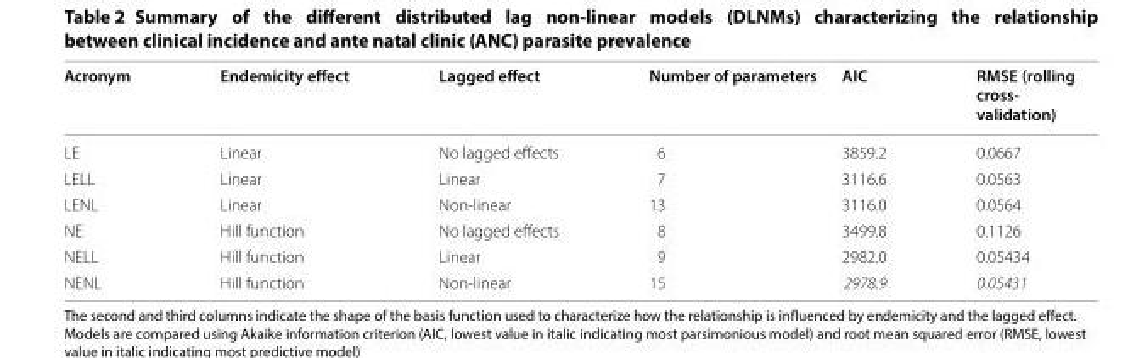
<table><thead><tr><td>Acronym</td><td>Endemicity effect</td><td>Lagged effect</td><td>Number of parameters</td><td>AIC</td><td>RMSE (rolling cross- validation)</td></tr></thead><tbody><tr><td>LE</td><td>Linear</td><td>No lagged effects</td><td>6</td><td>3859.2</td><td>0.0667</td></tr><tr><td>LELL</td><td>Linear</td><td>Linear</td><td>7</td><td>3116.6</td><td>0.0563</td></tr><tr><td>LENL</td><td>Linear</td><td>Non-linear</td><td>13</td><td>3116.0</td><td>0.0564</td></tr><tr><td>NE</td><td>Hill function</td><td>No lagged effects</td><td>8</td><td>3499.8</td><td>0.1126</td></tr><tr><td>NELL</td><td>Hill function</td><td>Linear</td><td>9</td><td>2982.0</td><td>0.05434</td></tr><tr><td>NENL</td><td>Hill function</td><td>Non-linear</td><td>15</td><td>2978.9</td><td>0.05431</td></tr></tbody></table>